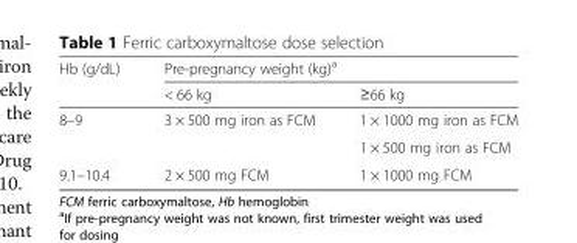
<table><thead><tr><td rowspan="2">Hb (g/dL)</td><td colspan="2">Pre-pregnancy weight (kg)<sup>a</sup></td></tr><tr><td>&lt; 66 kg</td><td>≥66 kg</td></tr></thead><tbody><tr><td rowspan="2">8–9</td><td rowspan="2">3 × 500 mg iron as FCM</td><td>1 × 1000 mg iron as FCM</td></tr><tr><td>1 × 500 mg iron as FCM</td></tr><tr><td>9.1–10.4</td><td>2 × 500 mg FCM</td><td>1 × 1000 mg FCM</td></tr></tbody></table>